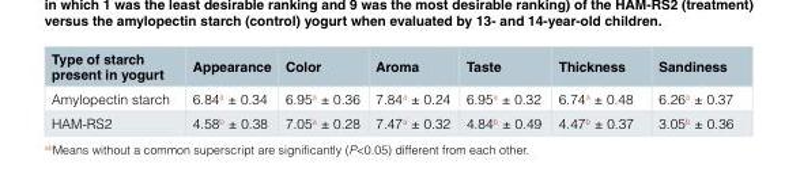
<table><thead><tr><td>Type of starch present in yogurt</td><td>Appearance</td><td>Color</td><td>Aroma</td><td>Taste</td><td>Thickness</td><td>Sandiness</td></tr></thead><tbody><tr><td>Amylopectin starch</td><td>6.84<sup>a</sup> ± 0.34</td><td>6.95<sup>a</sup> ± 0.36</td><td>7.84<sup>a</sup> ± 0.24</td><td>6.95<sup>a</sup> ± 0.32</td><td>6.74<sup>a</sup> ± 0.48</td><td>6.26<sup>a</sup> ± 0.37</td></tr><tr><td>HAM-RS2</td><td>4.58<sup>b</sup> ± 0.38</td><td>7.05<sup>a</sup> ± 0.28</td><td>7.47<sup>a</sup> ± 0.32</td><td>4.84<sup>b</sup> ± 0.49</td><td>4.47<sup>b</sup> ± 0.37</td><td>3.05<sup>b</sup> ± 0.36</td></tr></tbody></table>